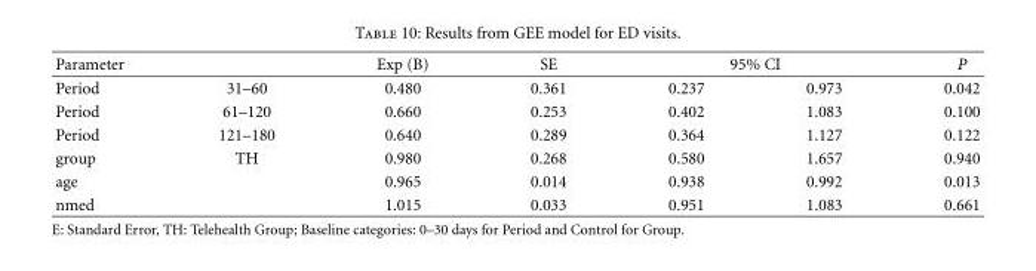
<table><thead><tr><td rowspan="2">Parameter Period</td><td rowspan="2">31–60</td><td rowspan="2">Exp (B) 0.480</td><td rowspan="2">SE 0.361</td><td colspan="2">95% CI</td><td rowspan="2">P 0.042</td></tr><tr><td>0.237</td><td>0.973</td></tr></thead><tbody><tr><td>Period</td><td>61–120</td><td>0.660</td><td>0.253</td><td>0.402</td><td>1.083</td><td>0.100</td></tr><tr><td>Period</td><td>121–180</td><td>0.640</td><td>0.289</td><td>0.364</td><td>1.127</td><td>0.122</td></tr><tr><td>group</td><td>TH</td><td>0.980</td><td>0.268</td><td>0.580</td><td>1.657</td><td>0.940</td></tr><tr><td>age</td><td></td><td>0.965</td><td>0.014</td><td>0.938</td><td>0.992</td><td>0.013</td></tr><tr><td>nmed</td><td></td><td>1.015</td><td>0.033</td><td>0.951</td><td>1.083</td><td>0.661</td></tr></tbody></table>